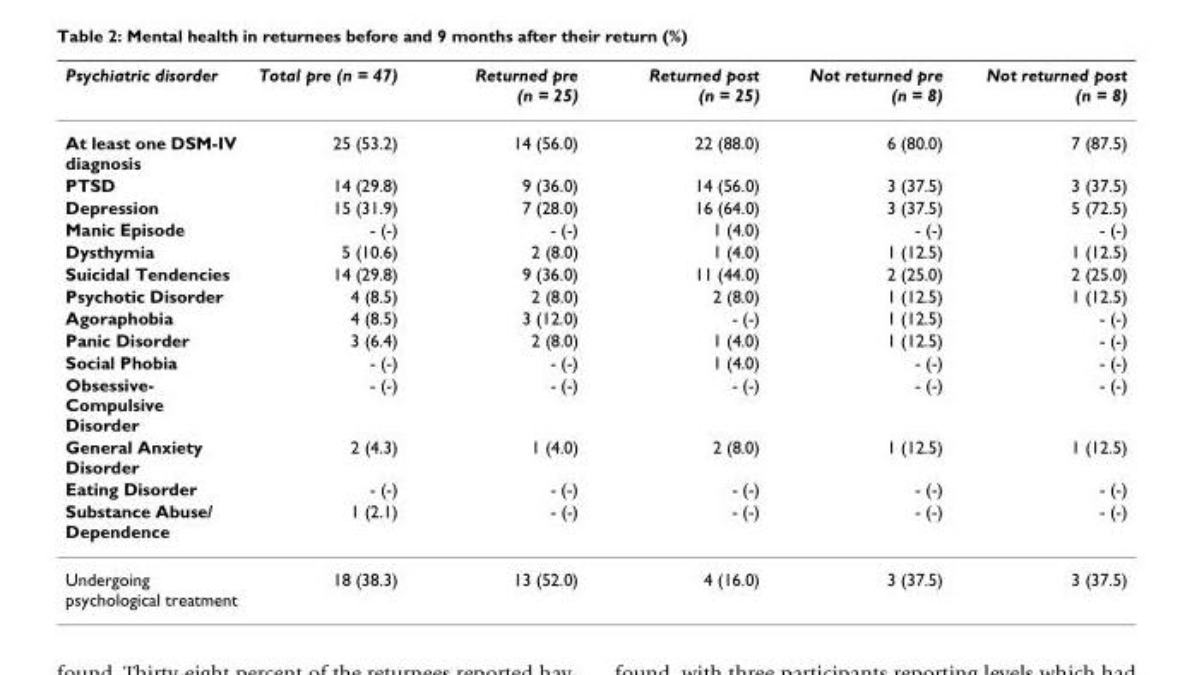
<table><thead><tr><td>Psychiatric disorder</td><td>Total pre (n = 47)</td><td>Returned pre (n = 25)</td><td>Returned post (n = 25)</td><td>Not returned pre (n = 8)</td><td>Not returned post (n = 8)</td></tr></thead><tbody><tr><td>At least one DSM-IV diagnosis</td><td>25 (53.2)</td><td>14 (56.0)</td><td>22 (88.0)</td><td>6 (80.0)</td><td>7 (87.5)</td></tr><tr><td>PTSD</td><td>14 (29.8)</td><td>9 (36.0)</td><td>14 (56.0)</td><td>3 (37.5)</td><td>3 (37.5)</td></tr><tr><td>Depression</td><td>15 (31.9)</td><td>7 (28.0)</td><td>16 (64.0)</td><td>3 (37.5)</td><td>5 (72.5)</td></tr><tr><td>Manic Episode</td><td>- (-)</td><td>- (-)</td><td>1 (4.0)</td><td>- (-)</td><td>- (-)</td></tr><tr><td>Dysthymia</td><td>5 (10.6)</td><td>2 (8.0)</td><td>1 (4.0)</td><td>1 (12.5)</td><td>1 (12.5)</td></tr><tr><td>Suicidal Tendencies</td><td>14 (29.8)</td><td>9 (36.0)</td><td>11 (44.0)</td><td>2 (25.0)</td><td>2 (25.0)</td></tr><tr><td>Psychotic Disorder</td><td>4 (8.5)</td><td>2 (8.0)</td><td>2 (8.0)</td><td>1 (12.5)</td><td>1 (12.5)</td></tr><tr><td>Agoraphobia</td><td>4 (8.5)</td><td>3 (12.0)</td><td>- (-)</td><td>1 (12.5)</td><td>- (-)</td></tr><tr><td>Panic Disorder</td><td>3 (6.4)</td><td>2 (8.0)</td><td>1 (4.0)</td><td>1 (12.5)</td><td>- (-)</td></tr><tr><td>Social Phobia</td><td>- (-)</td><td>- (-)</td><td>1 (4.0)</td><td>- (-)</td><td>- (-)</td></tr><tr><td>Obsessive- Compulsive Disorder</td><td>- (-)</td><td>- (-)</td><td>- (-)</td><td>- (-)</td><td>- (-)</td></tr><tr><td>General Anxiety Disorder</td><td>2 (4.3)</td><td>1 (4.0)</td><td>2 (8.0)</td><td>1 (12.5)</td><td>1 (12.5)</td></tr><tr><td>Eating Disorder</td><td>- (-)</td><td>- (-)</td><td>- (-)</td><td>- (-)</td><td>- (-)</td></tr><tr><td>Substance Abuse/ Dependence</td><td>1 (2.1)</td><td>- (-)</td><td>- (-)</td><td>- (-)</td><td>- (-)</td></tr><tr><td>Undergoing psychological treatment</td><td>18 (38.3)</td><td>13 (52.0)</td><td>4 (16.0)</td><td>3 (37.5)</td><td>3 (37.5)</td></tr></tbody></table>